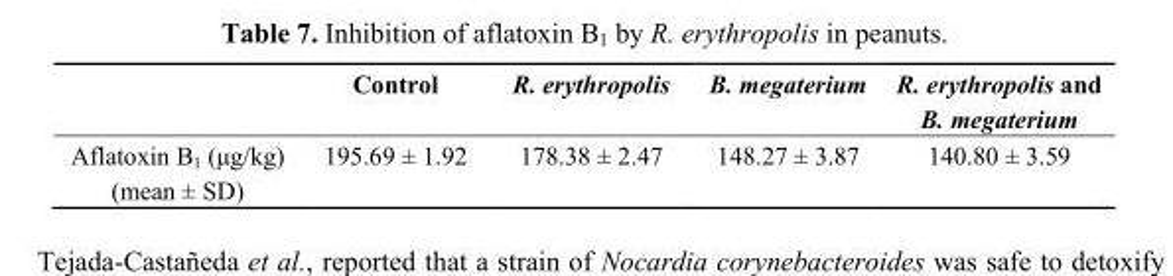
<table><thead><tr><td></td><td>Control</td><td>R. erythropolis</td><td>B. megaterium</td><td>R. erythropolis and B. megaterium</td></tr></thead><tbody><tr><td>Aflatoxin B<sub>1</sub> (μg/kg) (mean ± SD)</td><td>195.69 ± 1.92</td><td>178.38 ± 2.47</td><td>148.27 ± 3.87</td><td>140.80 ± 3.59</td></tr></tbody></table>